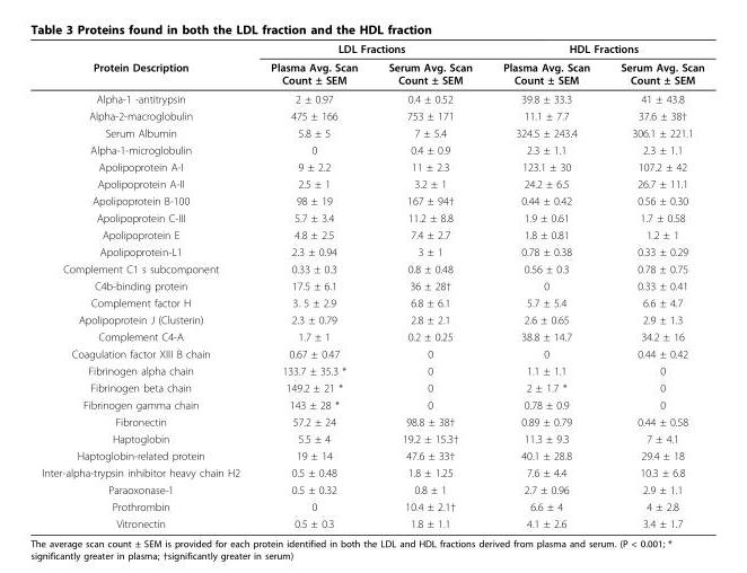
<table><thead><tr><td rowspan="2">Protein Description</td><td colspan="2">LDL Fractions</td><td colspan="2">HDL Fractions</td></tr><tr><td>Plasma Avg. Scan Count ± SEM</td><td>Serum Avg. Scan Count ± SEM</td><td>Plasma Avg. Scan Count ± SEM</td><td>Serum Avg. Scan Count ± SEM</td></tr></thead><tbody><tr><td>Alpha-1 -antitrypsin</td><td>2 ± 0.97</td><td>0.4 ± 0.52</td><td>39.8 ± 33.3</td><td>41 ± 43.8</td></tr><tr><td>Alpha-2-macroglobulin</td><td>475 ± 166</td><td>753 ± 171</td><td>11.1 ± 7.7</td><td>37.6 ± 38†</td></tr><tr><td>Serum Albumin</td><td>5.8 ± 5</td><td>7 ± 5.4</td><td>324.5 ± 243.4</td><td>306.1 ± 221.1</td></tr><tr><td>Alpha-1-microglobulin</td><td>0</td><td>0.4 ± 0.9</td><td>2.3 ± 1.1</td><td>2.3 ± 1.1</td></tr><tr><td>Apolipoprotein A-I</td><td>9 ± 2.2</td><td>11 ± 2.3</td><td>123.1 ± 30</td><td>107.2 ± 42</td></tr><tr><td>Apolipoprotein A-II</td><td>2.5 ± 1</td><td>3.2 ± 1</td><td>24.2 ± 6.5</td><td>26.7 ± 11.1</td></tr><tr><td>Apolipoprotein B-100</td><td>98 ± 19</td><td>167 ± 94†</td><td>0.44 ± 0.42</td><td>0.56 ± 0.30</td></tr><tr><td>Apolipoprotein C-III</td><td>5.7 ± 3.4</td><td>11.2 ± 8.8</td><td>1.9 ± 0.61</td><td>1.7 ± 0.58</td></tr><tr><td>Apolipoprotein E</td><td>4.8 ± 2.5</td><td>7.4 ± 2.7</td><td>1.8 ± 0.81</td><td>1.2 ± 1</td></tr><tr><td>Apolipoprotein-L1</td><td>2.3 ± 0.94</td><td>3 ± 1</td><td>0.78 ± 0.38</td><td>0.33 ± 0.29</td></tr><tr><td>Complement C1 s subcomponent</td><td>0.33 ± 0.3</td><td>0.8 ± 0.48</td><td>0.56 ± 0.3</td><td>0.78 ± 0.75</td></tr><tr><td>C4b-binding protein</td><td>17.5 ± 6.1</td><td>36 ± 28†</td><td>0</td><td>0.33 ± 0.41</td></tr><tr><td>Complement factor H</td><td>3. 5 ± 2.9</td><td>6.8 ± 6.1</td><td>5.7 ± 5.4</td><td>6.6 ± 4.7</td></tr><tr><td>Apolipoprotein J (Clusterin)</td><td>2.3 ± 0.79</td><td>2.8 ± 2.1</td><td>2.6 ± 0.65</td><td>2.9 ± 1.3</td></tr><tr><td>Complement C4-A</td><td>1.7 ± 1</td><td>0.2 ± 0.25</td><td>38.8 ± 14.7</td><td>34.2 ± 16</td></tr><tr><td>Coagulation factor XIII B chain</td><td>0.67 ± 0.47</td><td>0</td><td>0</td><td>0.44 ± 0.42</td></tr><tr><td>Fibrinogen alpha chain</td><td>133.7 ± 35.3 *</td><td>0</td><td>1.1 ± 1.1</td><td>0</td></tr><tr><td>Fibrinogen beta chain</td><td>149.2 ± 21 *</td><td>0</td><td>2 ± 1.7 *</td><td>0</td></tr><tr><td>Fibrinogen gamma chain</td><td>143 ± 28 *</td><td>0</td><td>0.78 ± 0.9</td><td>0</td></tr><tr><td>Fibronectin</td><td>57.2 ± 24</td><td>98.8 ± 38†</td><td>0.89 ± 0.79</td><td>0.44 ± 0.58</td></tr><tr><td>Haptoglobin</td><td>5.5 ± 4</td><td>19.2 ± 15.3†</td><td>11.3 ± 9.3</td><td>7 ± 4.1</td></tr><tr><td>Haptoglobin-related protein</td><td>19 ± 14</td><td>47.6 ± 33†</td><td>40.1 ± 28.8</td><td>29.4 ± 18</td></tr><tr><td>Inter-alpha-trypsin inhibitor heavy chain H2</td><td>0.5 ± 0.48</td><td>1.8 ± 1.25</td><td>7.6 ± 4.4</td><td>10.3 ± 6.8</td></tr><tr><td>Paraoxonase-1</td><td>0.5 ± 0.32</td><td>0.8 ± 1</td><td>2.7 ± 0.96</td><td>2.9 ± 1.1</td></tr><tr><td>Prothrombin</td><td>0</td><td>10.4 ± 2.1†</td><td>6.6 ± 4</td><td>4 ± 2.8</td></tr><tr><td>Vitronectin</td><td>0.5 ± 0.3</td><td>1.8 ± 1.1</td><td>4.1 ± 2.6</td><td>3.4 ± 1.7</td></tr></tbody></table>